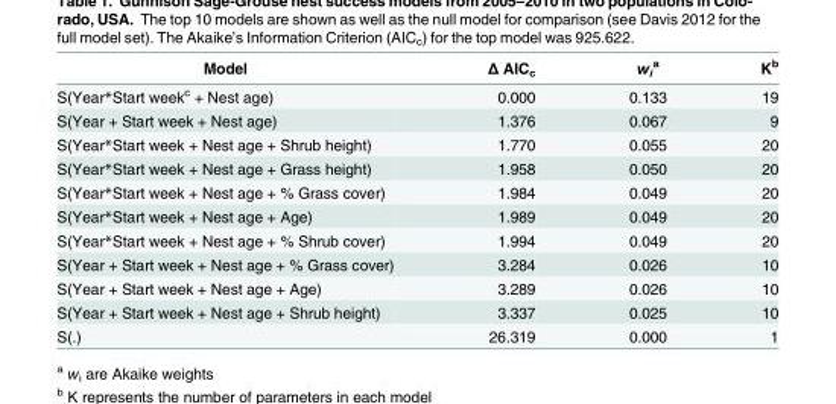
<table><thead><tr><td>Model</td><td>Δ AIC<sub>c</sub></td><td>w<sub>i</sub> <sup>a</sup></td><td>K<sup>b</sup></td></tr></thead><tbody><tr><td>S(Year*Start week<sup>c</sup> + Nest age)</td><td>0.000</td><td>0.133</td><td>19</td></tr><tr><td>S(Year + Start week + Nest age)</td><td>1.376</td><td>0.067</td><td>9</td></tr><tr><td>S(Year*Start week + Nest age + Shrub height)</td><td>1.770</td><td>0.055</td><td>20</td></tr><tr><td>S(Year*Start week + Nest age + Grass height)</td><td>1.958</td><td>0.050</td><td>20</td></tr><tr><td>S(Year*Start week + Nest age + % Grass cover)</td><td>1.984</td><td>0.049</td><td>20</td></tr><tr><td>S(Year*Start week + Nest age + Age)</td><td>1.989</td><td>0.049</td><td>20</td></tr><tr><td>S(Year*Start week + Nest age + % Shrub cover)</td><td>1.994</td><td>0.049</td><td>20</td></tr><tr><td>S(Year + Start week + Nest age + % Grass cover)</td><td>3.284</td><td>0.026</td><td>10</td></tr><tr><td>S(Year + Start week + Nest age + Age)</td><td>3.289</td><td>0.026</td><td>10</td></tr><tr><td>S(Year + Start week + Nest age + Shrub height)</td><td>3.337</td><td>0.025</td><td>10</td></tr><tr><td>S(.)</td><td>26.319</td><td>0.000</td><td>1</td></tr></tbody></table>